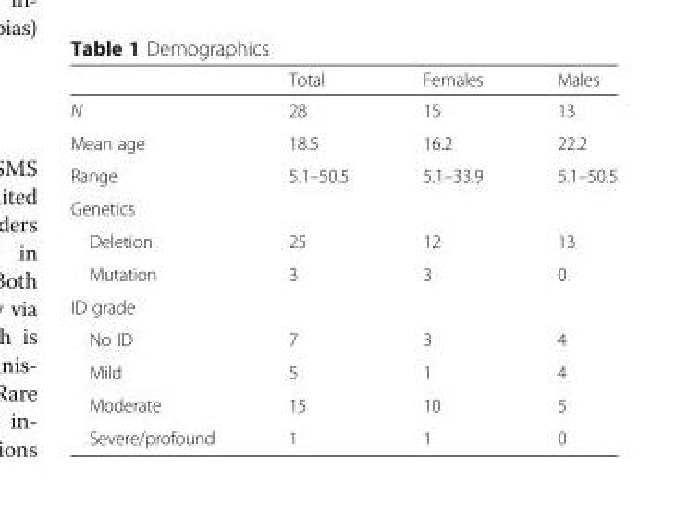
<table><thead><tr><td></td><td>Total</td><td>Females</td><td>Males</td></tr></thead><tbody><tr><td>N</td><td>28</td><td>15</td><td>13</td></tr><tr><td>Mean age</td><td>18.5</td><td>16.2</td><td>22.2</td></tr><tr><td>Range</td><td>5.1–50.5</td><td>5.1–33.9</td><td>5.1–50.5</td></tr><tr><td colspan="4">Genetics</td></tr><tr><td>Deletion</td><td>25</td><td>12</td><td>13</td></tr><tr><td>Mutation</td><td>3</td><td>3</td><td>0</td></tr><tr><td colspan="4">ID grade</td></tr><tr><td>No ID</td><td>7</td><td>3</td><td>4</td></tr><tr><td>Mild</td><td>5</td><td>1</td><td>4</td></tr><tr><td>Moderate</td><td>15</td><td>10</td><td>5</td></tr><tr><td>Severe/profound</td><td>1</td><td>1</td><td>0</td></tr></tbody></table>